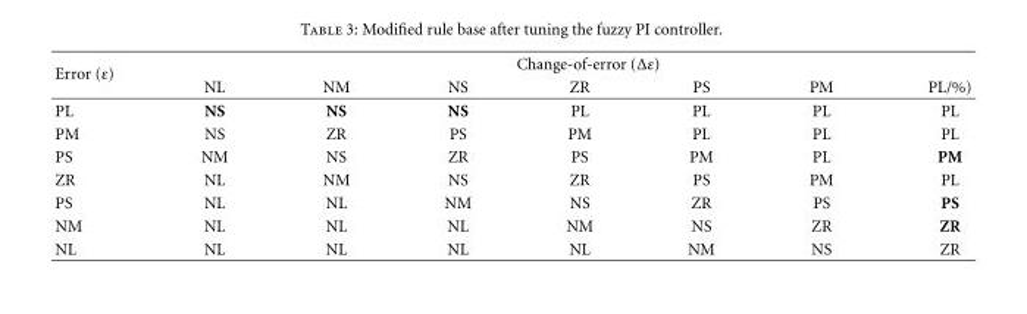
<table><thead><tr><td rowspan="2">Error (ε)</td><td colspan="7">Change-of-error (Δε)</td></tr><tr><td>NL</td><td>NM</td><td>NS</td><td>ZR</td><td>PS</td><td>PM</td><td>PL/%)</td></tr></thead><tbody><tr><td>PL</td><td>NS</td><td>NS</td><td>NS</td><td>PL</td><td>PL</td><td>PL</td><td>PL</td></tr><tr><td>PM</td><td>NS</td><td>ZR</td><td>PS</td><td>PM</td><td>PL</td><td>PL</td><td>PL</td></tr><tr><td>PS</td><td>NM</td><td>NS</td><td>ZR</td><td>PS</td><td>PM</td><td>PL</td><td>PM</td></tr><tr><td>ZR</td><td>NL</td><td>NM</td><td>NS</td><td>ZR</td><td>PS</td><td>PM</td><td>PL</td></tr><tr><td>PS</td><td>NL</td><td>NL</td><td>NM</td><td>NS</td><td>ZR</td><td>PS</td><td>PS</td></tr><tr><td>NM</td><td>NL</td><td>NL</td><td>NL</td><td>NM</td><td>NS</td><td>ZR</td><td>ZR</td></tr><tr><td>NL</td><td>NL</td><td>NL</td><td>NL</td><td>NL</td><td>NM</td><td>NS</td><td>ZR</td></tr></tbody></table>